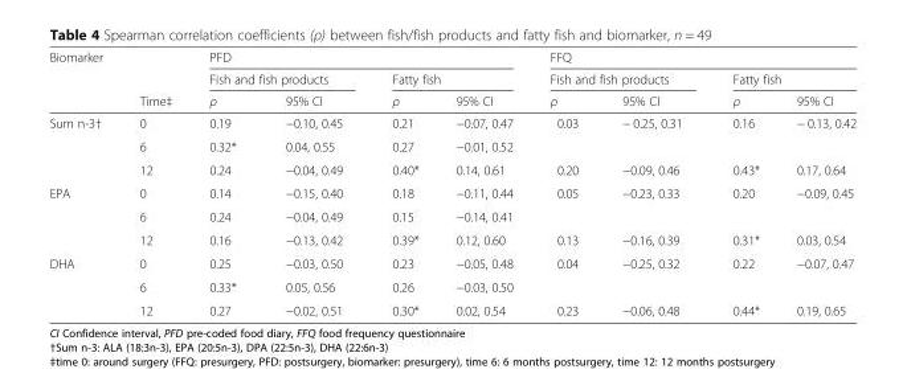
<table><thead><tr><td rowspan="3">Biomarker</td><td rowspan="3">Time‡</td><td colspan="4">PFD</td><td colspan="4">FFQ</td></tr><tr><td colspan="2">Fish and fish products</td><td colspan="2">Fatty fish</td><td colspan="2">Fish and fish products</td><td colspan="2">Fatty fish</td></tr><tr><td>ρ</td><td>95% CI</td><td>ρ</td><td>95% CI</td><td>ρ</td><td>95% CI</td><td>ρ</td><td>95% CI</td></tr></thead><tbody><tr><td rowspan="3">Sum n-3†</td><td>0</td><td>0.19</td><td>−0.10, 0.45</td><td>0.21</td><td>−0.07, 0.47</td><td>0.03</td><td>− 0.25, 0.31</td><td>0.16</td><td>− 0.13, 0.42</td></tr><tr><td>6</td><td>0.32*</td><td>0.04, 0.55</td><td>0.27</td><td>−0.01, 0.52</td><td></td><td></td><td></td><td></td></tr><tr><td>12</td><td>0.24</td><td>−0.04, 0.49</td><td>0.40*</td><td>0.14, 0.61</td><td>0.20</td><td>−0.09, 0.46</td><td>0.43*</td><td>0.17, 0.64</td></tr><tr><td rowspan="3">EPA</td><td>0</td><td>0.14</td><td>−0.15, 0.40</td><td>0.18</td><td>−0.11, 0.44</td><td>0.05</td><td>−0.23, 0.33</td><td>0.20</td><td>−0.09, 0.45</td></tr><tr><td>6</td><td>0.24</td><td>−0.04, 0.49</td><td>0.15</td><td>−0.14, 0.41</td><td></td><td></td><td></td><td></td></tr><tr><td>12</td><td>0.16</td><td>−0.13, 0.42</td><td>0.39*</td><td>0.12, 0.60</td><td>0.13</td><td>−0.16, 0.39</td><td>0.31*</td><td>0.03, 0.54</td></tr><tr><td rowspan="3">DHA</td><td>0</td><td>0.25</td><td>−0.03, 0.50</td><td>0.23</td><td>−0.05, 0.48</td><td>0.04</td><td>−0.25, 0.32</td><td>0.22</td><td>−0.07, 0.47</td></tr><tr><td>6</td><td>0.33*</td><td>0.05, 0.56</td><td>0.26</td><td>−0.03, 0.50</td><td></td><td></td><td></td><td></td></tr><tr><td>12</td><td>0.27</td><td>−0.02, 0.51</td><td>0.30*</td><td>0.02, 0.54</td><td>0.23</td><td>−0.06, 0.48</td><td>0.44*</td><td>0.19, 0.65</td></tr></tbody></table>